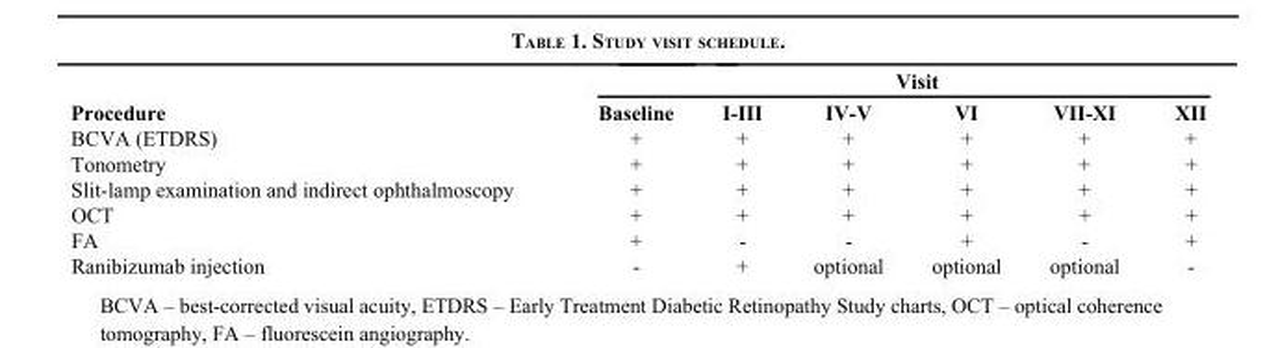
<table><thead><tr><td rowspan="2">Procedure</td><td colspan="6">Visit</td></tr><tr><td>Baseline</td><td>I-III</td><td>IV-V</td><td>VI</td><td>VII-XI</td><td>XII</td></tr></thead><tbody><tr><td>BCVA (ETDRS)</td><td>+</td><td>+</td><td>+</td><td>+</td><td>+</td><td>+</td></tr><tr><td>Tonometry</td><td>+</td><td>+</td><td>+</td><td>+</td><td>+</td><td>+</td></tr><tr><td>Slit-lamp examination and indirect ophthalmoscopy</td><td>+</td><td>+</td><td>+</td><td>+</td><td>+</td><td>+</td></tr><tr><td>OCT</td><td>+</td><td>+</td><td>+</td><td>+</td><td>+</td><td>+</td></tr><tr><td>FA</td><td>+</td><td>-</td><td>-</td><td>+</td><td>-</td><td>+</td></tr><tr><td>Ranibizumab injection</td><td>-</td><td>+</td><td>optional</td><td>optional</td><td>optional</td><td>-</td></tr></tbody></table>